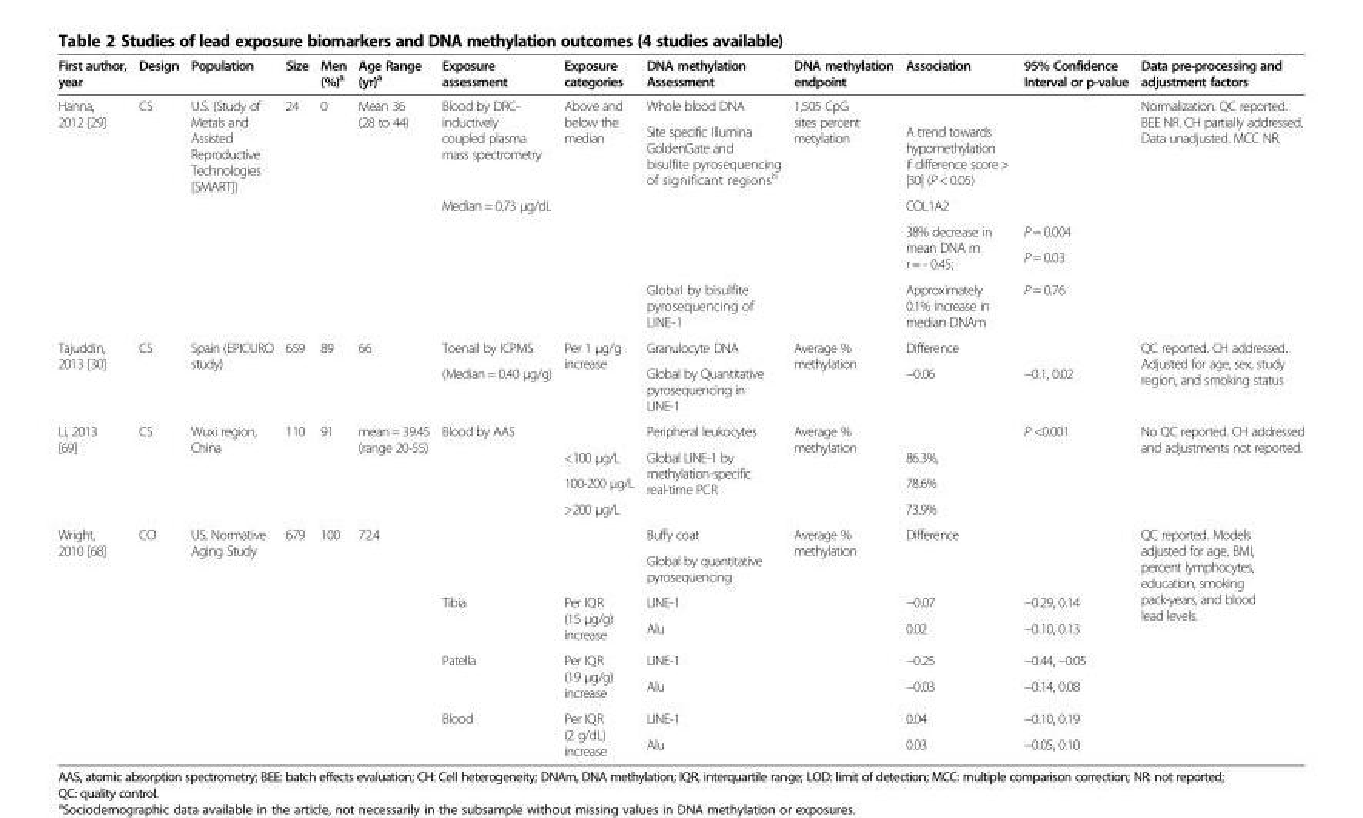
<table><thead><tr><td>First author, year</td><td>Design</td><td>Population</td><td>Size</td><td>Men (%)<sup>a</sup></td><td>Age Range (yr)<sup>a</sup></td><td>Exposure assessment</td><td>Exposure categories</td><td>DNA methylation Assessment</td><td>DNA methylation endpoint</td><td>Association</td><td>95% Confidence Interval or p-value</td><td>Data pre-processing and adjustment factors</td></tr></thead><tbody><tr><td rowspan="6">Hanna, 2012 [29]</td><td rowspan="6">CS</td><td rowspan="6">U.S. (Study of Metals and Assisted Reproductive Technologies [SMART])</td><td rowspan="6">24</td><td rowspan="6">0</td><td rowspan="6">Mean 36 (28 to 44)</td><td rowspan="2">Blood by DRC- inductively coupled plasma mass spectrometry</td><td rowspan="6">Above and below the median</td><td>Whole blood DNA</td><td rowspan="6">1,505 CpG sites percent metylation</td><td></td><td rowspan="3"></td><td rowspan="6">Normalization. QC reported. BEE NR. CH partially addressed. Data unadjusted. MCC NR.</td></tr><tr><td rowspan="4">Site specific Illumina GoldenGate and bisulfite pyrosequencing of significant regions<sup>b</sup></td><td>A trend towards hypomethylation if difference score &gt; |30| (P &lt; 0.05)</td></tr><tr><td rowspan="4">Median = 0.73 μg/dL</td><td>COL1A2</td></tr><tr><td rowspan="2">38% decrease in mean DNA m r = - 0.45;</td><td>P = 0.004</td></tr><tr><td>P = 0.03</td></tr><tr><td>Global by bisulfite pyrosequencing of LINE-1</td><td>Approximately 0.1% increase in median DNAm</td><td>P = 0.76</td></tr><tr><td rowspan="2">Tajuddin, 2013 [30]</td><td rowspan="2">CS</td><td rowspan="2">Spain (EPICURO study)</td><td rowspan="2">659</td><td rowspan="2">89</td><td rowspan="2">66</td><td>Toenail by ICPMS</td><td rowspan="2">Per 1 μg/g increase</td><td>Granulocyte DNA</td><td rowspan="2">Average % methylation</td><td>Difference</td><td></td><td rowspan="2">QC reported. CH addressed. Adjusted for age, sex, study region, and smoking status</td></tr><tr><td>(Median = 0.40 μg/g)</td><td>Global by Quantitative pyrosequencing in LINE-1</td><td>−0.06</td><td>−0.1, 0.02</td></tr><tr><td rowspan="4">Li, 2013 [69]</td><td rowspan="4">CS</td><td rowspan="4">Wuxi region, China</td><td rowspan="4">110</td><td rowspan="4">91</td><td rowspan="4">mean = 39.45 (range 20-55)</td><td rowspan="4">Blood by AAS</td><td></td><td>Peripheral leukocytes</td><td rowspan="4">Average % methylation</td><td></td><td rowspan="4">P &lt;0.001</td><td rowspan="4">No QC reported. CH addressed and adjustments not reported.</td></tr><tr><td>&lt;100 μg/L</td><td rowspan="3">Global LINE-1 by methylation-specific real-time PCR</td><td>86.3%,</td></tr><tr><td>100-200 μg/L</td><td>78.6%</td></tr><tr><td>&gt;200 μg/L</td><td>73.9%</td></tr><tr><td rowspan="8">Wright, 2010 [68]</td><td rowspan="8">CO</td><td rowspan="8">US, Normative Aging Study</td><td rowspan="8">679</td><td rowspan="8">100</td><td rowspan="8">72.4</td><td rowspan="2"></td><td rowspan="2"></td><td>Buffy coat</td><td rowspan="8">Average % methylation</td><td rowspan="2">Difference</td><td rowspan="2"></td><td rowspan="8">QC reported. Models adjusted for age, BMI, percent lymphocytes, education, smoking pack-years, and blood lead levels.</td></tr><tr><td>Global by quantitative pyrosequencing</td></tr><tr><td rowspan="2">Tibia</td><td rowspan="2">Per IQR (15 μg/g) increase</td><td>LINE-1</td><td>−0.07</td><td>−0.29, 0.14</td></tr><tr><td>Alu</td><td>0.02</td><td>−0.10, 0.13</td></tr><tr><td rowspan="2">Patella</td><td rowspan="2">Per IQR (19 μg/g) increase</td><td>LINE-1</td><td>−0.25</td><td>−0.44, –0.05</td></tr><tr><td>Alu</td><td>−0.03</td><td>−0.14, 0.08</td></tr><tr><td rowspan="2">Blood</td><td rowspan="2">Per IQR (2 g/dL) increase</td><td>LINE-1</td><td>0.04</td><td>−0.10, 0.19</td></tr><tr><td>Alu</td><td>0.03</td><td>−0.05, 0.10</td></tr></tbody></table>